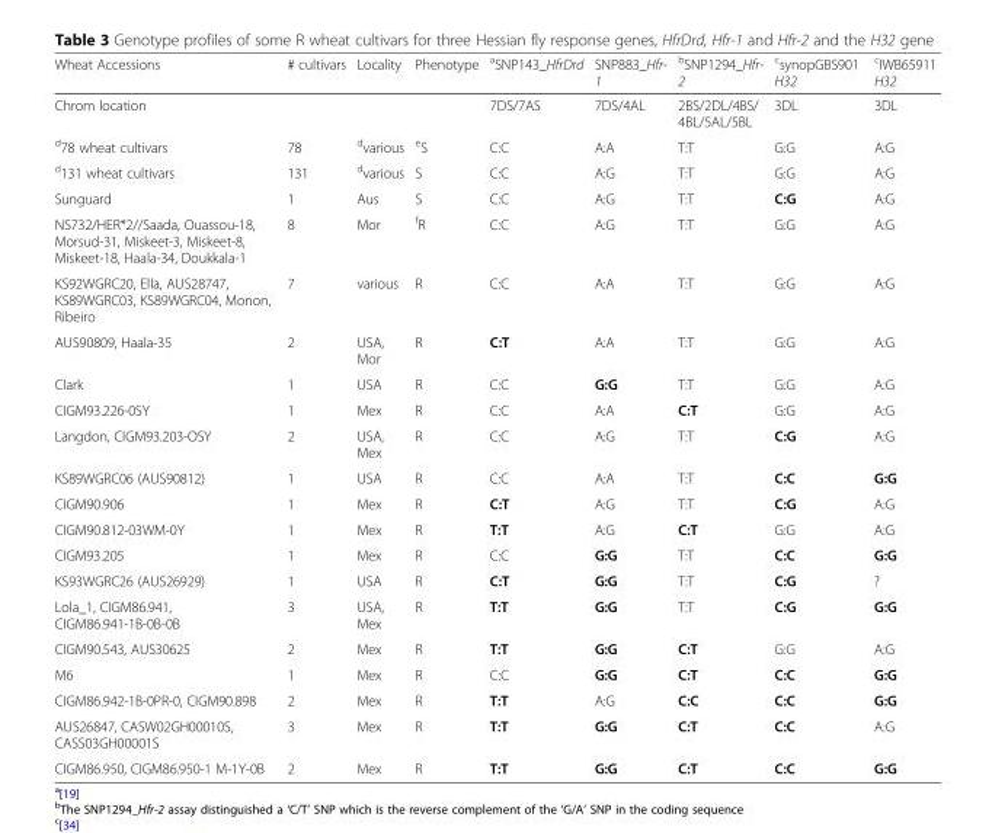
<table><thead><tr><td>Wheat Accessions</td><td># cultivars</td><td>Locality</td><td>Phenotype</td><td><sup>a</sup>SNP143_HfrDrd</td><td>SNP883_Hfr- 1</td><td><sup>b</sup>SNP1294_Hfr- 2</td><td><sup>c</sup>synopGBS901 H32</td><td><sup>c</sup>IWB65911 H32</td></tr></thead><tbody><tr><td>Chrom location</td><td></td><td></td><td></td><td>7DS/7AS</td><td>7DS/4AL</td><td>2BS/2DL/4BS/ 4BL/5AL/5BL</td><td>3DL</td><td>3DL</td></tr><tr><td><sup>d</sup>78 wheat cultivars</td><td>78</td><td><sup>d</sup>various</td><td><sup>e</sup>S</td><td>C:C</td><td>A:A</td><td>T:T</td><td>G:G</td><td>A:G</td></tr><tr><td><sup>d</sup>131 wheat cultivars</td><td>131</td><td><sup>d</sup>various</td><td>S</td><td>C:C</td><td>A:G</td><td>T:T</td><td>G:G</td><td>A:G</td></tr><tr><td>Sunguard</td><td>1</td><td>Aus</td><td>S</td><td>C:C</td><td>A:G</td><td>T:T</td><td>C:G</td><td>A:G</td></tr><tr><td>NS732/HER*2//Saada, Ouassou-18, Morsud-31, Miskeet-3, Miskeet-8, Miskeet-18, Haala-34, Doukkala-1</td><td>8</td><td>Mor</td><td><sup>f</sup>R</td><td>C:C</td><td>A:G</td><td>T:T</td><td>G:G</td><td>A:G</td></tr><tr><td>KS92WGRC20, Ella, AUS28747, KS89WGRC03, KS89WGRC04, Monon, Ribeiro</td><td>7</td><td>various</td><td>R</td><td>C:C</td><td>A:A</td><td>T:T</td><td>G:G</td><td>A:G</td></tr><tr><td>AUS90809, Haala-35</td><td>2</td><td>USA, Mor</td><td>R</td><td>C:T</td><td>A:A</td><td>T:T</td><td>G:G</td><td>A:G</td></tr><tr><td>Clark</td><td>1</td><td>USA</td><td>R</td><td>C:C</td><td>G:G</td><td>T:T</td><td>G:G</td><td>A:G</td></tr><tr><td>CIGM93.226-0SY</td><td>1</td><td>Mex</td><td>R</td><td>C:C</td><td>A:A</td><td>C:T</td><td>G:G</td><td>A:G</td></tr><tr><td>Langdon, CIGM93.203-OSY</td><td>2</td><td>USA, Mex</td><td>R</td><td>C:C</td><td>A:G</td><td>T:T</td><td>C:G</td><td>A:G</td></tr><tr><td>KS89WGRC06 (AUS90812)</td><td>1</td><td>USA</td><td>R</td><td>C:C</td><td>A:A</td><td>T:T</td><td>C:C</td><td>G:G</td></tr><tr><td>CIGM90.906</td><td>1</td><td>Mex</td><td>R</td><td>C:T</td><td>A:G</td><td>T:T</td><td>C:G</td><td>A:G</td></tr><tr><td>CIGM90.812-03WM-0Y</td><td>1</td><td>Mex</td><td>R</td><td>T:T</td><td>A:G</td><td>C:T</td><td>G:G</td><td>A:G</td></tr><tr><td>CIGM93.205</td><td>1</td><td>Mex</td><td>R</td><td>C:C</td><td>G:G</td><td>T:T</td><td>C:C</td><td>G:G</td></tr><tr><td>KS93WGRC26 (AUS26929)</td><td>1</td><td>USA</td><td>R</td><td>C:T</td><td>G:G</td><td>T:T</td><td>C:G</td><td>?</td></tr><tr><td>Lola_1, CIGM86.941, CIGM86.941-1B-0B-0B</td><td>3</td><td>USA, Mex</td><td>R</td><td>T:T</td><td>G:G</td><td>T:T</td><td>C:G</td><td>G:G</td></tr><tr><td>CIGM90.543, AUS30625</td><td>2</td><td>Mex</td><td>R</td><td>T:T</td><td>G:G</td><td>C:T</td><td>G:G</td><td>A:G</td></tr><tr><td>M6</td><td>1</td><td>Mex</td><td>R</td><td>C:C</td><td>G:G</td><td>C:T</td><td>C:C</td><td>G:G</td></tr><tr><td>CIGM86.942-1B-0PR-0, CIGM90.898</td><td>2</td><td>Mex</td><td>R</td><td>T:T</td><td>A:G</td><td>C:C</td><td>C:C</td><td>G:G</td></tr><tr><td>AUS26847, CASW02GH00010S, CASS03GH00001S</td><td>3</td><td>Mex</td><td>R</td><td>T:T</td><td>G:G</td><td>C:T</td><td>C:C</td><td>A:G</td></tr><tr><td>CIGM86.950, CIGM86.950-1 M-1Y-0B</td><td>2</td><td>Mex</td><td>R</td><td>T:T</td><td>G:G</td><td>C:T</td><td>C:C</td><td>G:G</td></tr></tbody></table>